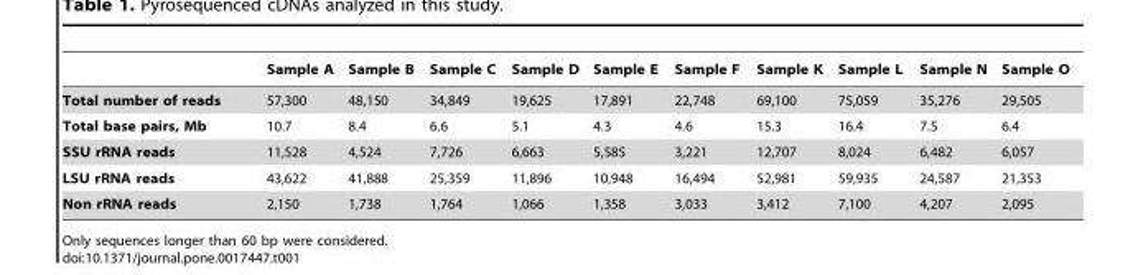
<table><thead><tr><td></td><td>Sample A</td><td>Sample B</td><td>Sample C</td><td>Sample D</td><td>Sample E</td><td>Sample F</td><td>Sample K</td><td>Sample L</td><td>Sample N</td><td>Sample O</td></tr></thead><tbody><tr><td>Total number of reads</td><td>57,300</td><td>48,150</td><td>34,849</td><td>19,625</td><td>17,891</td><td>22,748</td><td>69,100</td><td>75,059</td><td>35,276</td><td>29,505</td></tr><tr><td>Total base pairs, Mb</td><td>10.7</td><td>8.4</td><td>6.6</td><td>5.1</td><td>4.3</td><td>4.6</td><td>15.3</td><td>16.4</td><td>7.5</td><td>6.4</td></tr><tr><td>SSU rRNA reads</td><td>11,528</td><td>4,524</td><td>7,726</td><td>6,663</td><td>5,585</td><td>3,221</td><td>12,707</td><td>8,024</td><td>6,482</td><td>6,057</td></tr><tr><td>LSU rRNA reads</td><td>43,622</td><td>41,888</td><td>25,359</td><td>11,896</td><td>10,948</td><td>16,494</td><td>52,981</td><td>59,935</td><td>24,587</td><td>21,353</td></tr><tr><td>Non rRNA reads</td><td>2,150</td><td>1,738</td><td>1,764</td><td>1,066</td><td>1,358</td><td>3,033</td><td>3,412</td><td>7,100</td><td>4,207</td><td>2,095</td></tr></tbody></table>